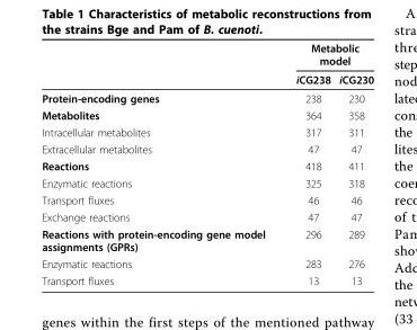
<table><thead><tr><td rowspan="2"></td><td colspan="2">Metabolic model</td></tr><tr><td>iCG238</td><td>iCG230</td></tr></thead><tbody><tr><td>Protein-encoding genes</td><td>238</td><td>230</td></tr><tr><td>Metabolites</td><td>364</td><td>358</td></tr><tr><td>Intracellular metabolites</td><td>317</td><td>311</td></tr><tr><td>Extracellular metabolites</td><td>47</td><td>47</td></tr><tr><td>Reactions</td><td>418</td><td>411</td></tr><tr><td>Enzymatic reactions</td><td>325</td><td>318</td></tr><tr><td>Transport fluxes</td><td>46</td><td>46</td></tr><tr><td>Exchange reactions</td><td>47</td><td>47</td></tr><tr><td>Reactions with protein-encoding gene model assignments (GPRs)</td><td>296</td><td>289</td></tr><tr><td>Enzymatic reactions</td><td>283</td><td>276</td></tr><tr><td>Transport fluxes</td><td>13</td><td>13</td></tr></tbody></table>